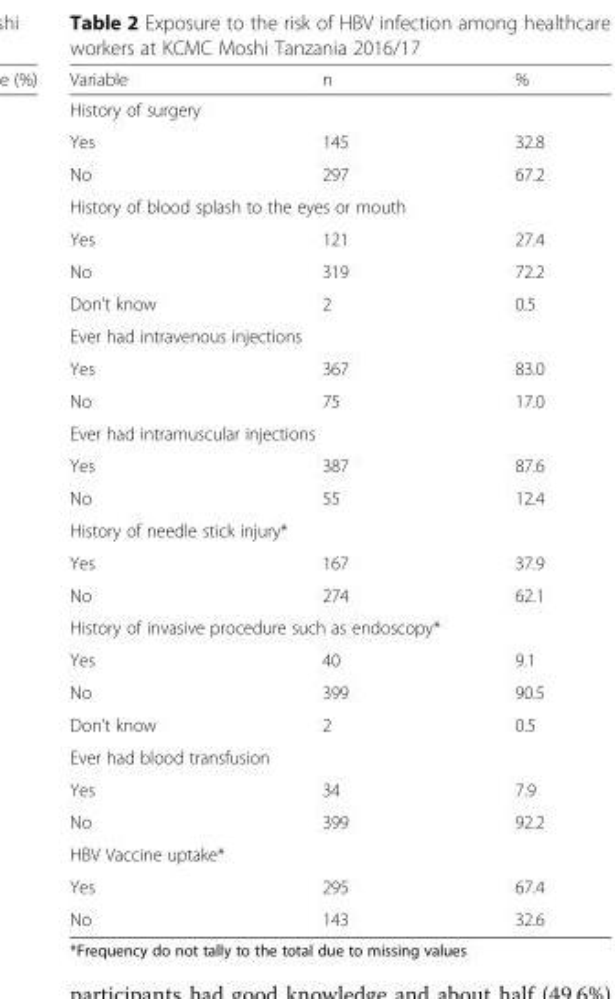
<table><thead><tr><td>Variable</td><td>n</td><td>%</td></tr></thead><tbody><tr><td colspan="3">History of surgery</td></tr><tr><td>Yes</td><td>145</td><td>32.8</td></tr><tr><td>No</td><td>297</td><td>67.2</td></tr><tr><td colspan="3">History of blood splash to the eyes or mouth</td></tr><tr><td>Yes</td><td>121</td><td>27.4</td></tr><tr><td>No</td><td>319</td><td>72.2</td></tr><tr><td>Don’t know</td><td>2</td><td>0.5</td></tr><tr><td colspan="3">Ever had intravenous injections</td></tr><tr><td>Yes</td><td>367</td><td>83.0</td></tr><tr><td>No</td><td>75</td><td>17.0</td></tr><tr><td colspan="3">Ever had intramuscular injections</td></tr><tr><td>Yes</td><td>387</td><td>87.6</td></tr><tr><td>No</td><td>55</td><td>12.4</td></tr><tr><td colspan="3">History of needle stick injury*</td></tr><tr><td>Yes</td><td>167</td><td>37.9</td></tr><tr><td>No</td><td>274</td><td>62.1</td></tr><tr><td colspan="3">History of invasive procedure such as endoscopy*</td></tr><tr><td>Yes</td><td>40</td><td>9.1</td></tr><tr><td>No</td><td>399</td><td>90.5</td></tr><tr><td>Don’t know</td><td>2</td><td>0.5</td></tr><tr><td colspan="3">Ever had blood transfusion</td></tr><tr><td>Yes</td><td>34</td><td>7.9</td></tr><tr><td>No</td><td>399</td><td>92.2</td></tr><tr><td colspan="3">HBV Vaccine uptake*</td></tr><tr><td>Yes</td><td>295</td><td>67.4</td></tr><tr><td>No</td><td>143</td><td>32.6</td></tr></tbody></table>